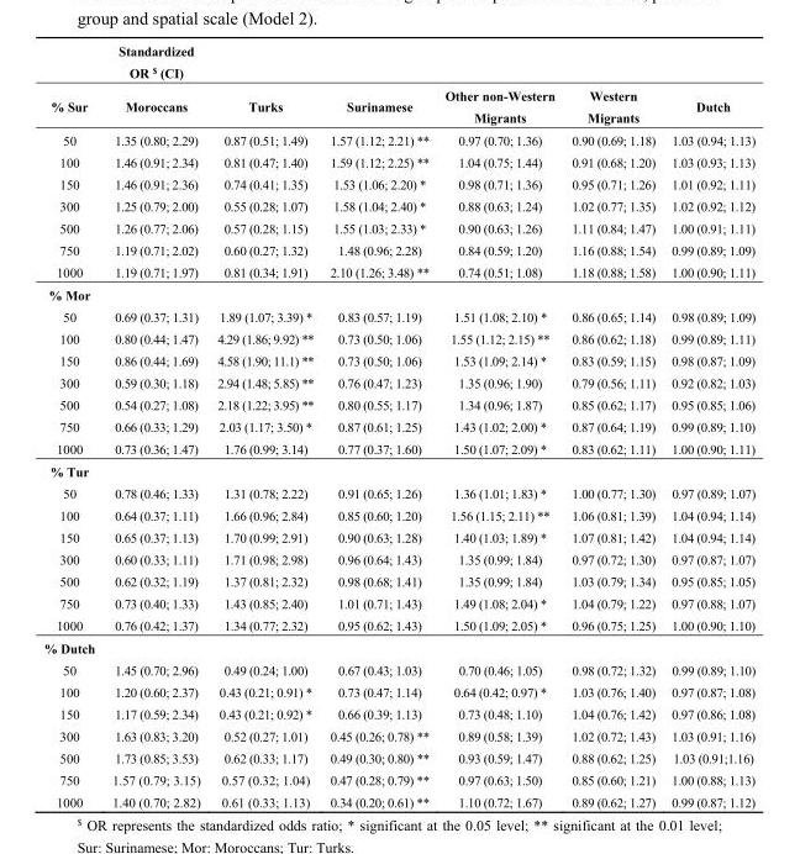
<table><thead><tr><td rowspan="2">% Sur</td><td rowspan="2">Standardized OR <sup>$</sup> (CI) Moroccans</td><td rowspan="2">Turks</td><td rowspan="2">Surinamese</td><td rowspan="2">Other non-Western Migrants</td><td rowspan="2">Western Migrants</td><td rowspan="2">Dutch</td></tr><tr></tr></thead><tbody><tr><td>50</td><td>1.35 (0.80; 2.29)</td><td>0.87 (0.51; 1.49)</td><td>1.57 (1.12; 2.21) **</td><td>0.97 (0.70; 1.36)</td><td>0.90 (0.69; 1.18)</td><td>1.03 (0.94; 1.13)</td></tr><tr><td>100</td><td>1.46 (0.91; 2.34)</td><td>0.81 (0.47; 1.40)</td><td>1.59 (1.12; 2.25) **</td><td>1.04 (0.75; 1.44)</td><td>0.91 (0.68; 1.20)</td><td>1.03 (0.93; 1.13)</td></tr><tr><td>150</td><td>1.46 (0.91; 2.36)</td><td>0.74 (0.41; 1.35)</td><td>1.53 (1.06; 2.20) *</td><td>0.98 (0.71; 1.36)</td><td>0.95 (0.71; 1.26)</td><td>1.01 (0.92; 1.11)</td></tr><tr><td>300</td><td>1.25 (0.79; 2.00)</td><td>0.55 (0.28; 1.07)</td><td>1.58 (1.04; 2.40) *</td><td>0.88 (0.63; 1.24)</td><td>1.02 (0.77; 1.35)</td><td>1.02 (0.92; 1.12)</td></tr><tr><td>500</td><td>1.26 (0.77; 2.06)</td><td>0.57 (0.28; 1.15)</td><td>1.55 (1.03; 2.33) *</td><td>0.90 (0.63; 1.26)</td><td>1.11 (0.84; 1.47)</td><td>1.00 (0.91; 1.11)</td></tr><tr><td>750</td><td>1.19 (0.71; 2.02)</td><td>0.60 (0.27; 1.32)</td><td>1.48 (0.96; 2.28)</td><td>0.84 (0.59; 1.20)</td><td>1.16 (0.88; 1.54)</td><td>0.99 (0.89; 1.09)</td></tr><tr><td>1000</td><td>1.19 (0.71; 1.97)</td><td>0.81 (0.34; 1.91)</td><td>2.10 (1.26; 3.48) **</td><td>0.74 (0.51; 1.08)</td><td>1.18 (0.88; 1.58)</td><td>1.00 (0.90; 1.11)</td></tr><tr><td colspan="7">% Mor</td></tr><tr><td>50</td><td>0.69 (0.37; 1.31)</td><td>1.89 (1.07; 3.39) *</td><td>0.83 (0.57; 1.19)</td><td>1.51 (1.08; 2.10) *</td><td>0.86 (0.65; 1.14)</td><td>0.98 (0.89; 1.09)</td></tr><tr><td>100</td><td>0.80 (0.44; 1.47)</td><td>4.29 (1.86; 9.92) **</td><td>0.73 (0.50; 1.06)</td><td>1.55 (1.12; 2.15) **</td><td>0.86 (0.62; 1.18)</td><td>0.99 (0.89; 1.11)</td></tr><tr><td>150</td><td>0.86 (0.44; 1.69)</td><td>4.58 (1.90; 11.1) **</td><td>0.73 (0.50; 1.06)</td><td>1.53 (1.09; 2.14) *</td><td>0.83 (0.59; 1.15)</td><td>0.98 (0.87; 1.09)</td></tr><tr><td>300</td><td>0.59 (0.30; 1.18)</td><td>2.94 (1.48; 5.85) **</td><td>0.76 (0.47; 1.23)</td><td>1.35 (0.96; 1.90)</td><td>0.79 (0.56; 1.11)</td><td>0.92 (0.82; 1.03)</td></tr><tr><td>500</td><td>0.54 (0.27; 1.08)</td><td>2.18 (1.22; 3.95) **</td><td>0.80 (0.55; 1.17)</td><td>1.34 (0.96; 1.87)</td><td>0.85 (0.62; 1.17)</td><td>0.95 (0.85; 1.06)</td></tr><tr><td>750</td><td>0.66 (0.33; 1.29)</td><td>2.03 (1.17; 3.50) *</td><td>0.87 (0.61; 1.25)</td><td>1.43 (1.02; 2.00) *</td><td>0.87 (0.64; 1.19)</td><td>0.99 (0.89; 1.10)</td></tr><tr><td>1000</td><td>0.73 (0.36; 1.47)</td><td>1.76 (0.99; 3.14)</td><td>0.77 (0.37; 1.60)</td><td>1.50 (1.07; 2.09) *</td><td>0.83 (0.62; 1.11)</td><td>1.00 (0.90; 1.11)</td></tr><tr><td colspan="7">% Tur</td></tr><tr><td>50</td><td>0.78 (0.46; 1.33)</td><td>1.31 (0.78; 2.22)</td><td>0.91 (0.65; 1.26)</td><td>1.36 (1.01; 1.83) *</td><td>1.00 (0.77; 1.30)</td><td>0.97 (0.89; 1.07)</td></tr><tr><td>100</td><td>0.64 (0.37; 1.11)</td><td>1.66 (0.96; 2.84)</td><td>0.85 (0.60; 1.20)</td><td>1.56 (1.15; 2.11) **</td><td>1.06 (0.81; 1.39)</td><td>1.04 (0.94; 1.14)</td></tr><tr><td>150</td><td>0.65 (0.37; 1.13)</td><td>1.70 (0.99; 2.91)</td><td>0.90 (0.63; 1.28)</td><td>1.40 (1.03; 1.89) *</td><td>1.07 (0.81; 1.42)</td><td>1.04 (0.94; 1.14)</td></tr><tr><td>300</td><td>0.60 (0.33; 1.11)</td><td>1.71 (0.98; 2.98)</td><td>0.96 (0.64; 1.43)</td><td>1.35 (0.99; 1.84)</td><td>0.97 (0.72; 1.30)</td><td>0.97 (0.87; 1.07)</td></tr><tr><td>500</td><td>0.62 (0.32; 1.19)</td><td>1.37 (0.81; 2.32)</td><td>0.98 (0.68; 1.41)</td><td>1.35 (0.99; 1.84)</td><td>1.03 (0.79; 1.34)</td><td>0.95 (0.85; 1.05)</td></tr><tr><td>750</td><td>0.73 (0.40; 1.33)</td><td>1.43 (0.85; 2.40)</td><td>1.01 (0.71; 1.43)</td><td>1.49 (1.08; 2.04) *</td><td>1.04 (0.79; 1.22)</td><td>0.97 (0.88; 1.07)</td></tr><tr><td>1000</td><td>0.76 (0.42; 1.37)</td><td>1.34 (0.77; 2.32)</td><td>0.95 (0.62; 1.43)</td><td>1.50 (1.09; 2.05) *</td><td>0.96 (0.75; 1.25)</td><td>1.00 (0.90; 1.10)</td></tr><tr><td colspan="7">% Dutch</td></tr><tr><td>50</td><td>1.45 (0.70; 2.96)</td><td>0.49 (0.24; 1.00)</td><td>0.67 (0.43; 1.03)</td><td>0.70 (0.46; 1.05)</td><td>0.98 (0.72; 1.32)</td><td>0.99 (0.89; 1.10)</td></tr><tr><td>100</td><td>1.20 (0.60; 2.37)</td><td>0.43 (0.21; 0.91) *</td><td>0.73 (0.47; 1.14)</td><td>0.64 (0.42; 0.97) *</td><td>1.03 (0.76; 1.40)</td><td>0.97 (0.87; 1.08)</td></tr><tr><td>150</td><td>1.17 (0.59; 2.34)</td><td>0.43 (0.21; 0.92) *</td><td>0.66 (0.39; 1.13)</td><td>0.73 (0.48; 1.10)</td><td>1.04 (0.76; 1.42)</td><td>0.97 (0.86; 1.08)</td></tr><tr><td>300</td><td>1.63 (0.83; 3.20)</td><td>0.52 (0.27; 1.01)</td><td>0.45 (0.26; 0.78) **</td><td>0.89 (0.58; 1.39)</td><td>1.02 (0.72; 1.43)</td><td>1.03 (0.91; 1.16)</td></tr><tr><td>500</td><td>1.73 (0.85; 3.53)</td><td>0.62 (0.33; 1.17)</td><td>0.49 (0.30; 0.80) **</td><td>0.93 (0.59; 1.47)</td><td>0.88 (0.62; 1.25)</td><td>1.03 (0.91;1.16)</td></tr><tr><td>750</td><td>1.57 (0.79; 3.15)</td><td>0.57 (0.32; 1.04)</td><td>0.47 (0.28; 0.79) **</td><td>0.97 (0.63; 1.50)</td><td>0.85 (0.60; 1.21)</td><td>1.00 (0.88; 1.13)</td></tr><tr><td>1000</td><td>1.40 (0.70; 2.82)</td><td>0.61 (0.33; 1.13)</td><td>0.34 (0.20; 0.61) **</td><td>1.10 (0.72; 1.67)</td><td>0.89 (0.62; 1.27)</td><td>0.99 (0.87; 1.12)</td></tr></tbody></table>